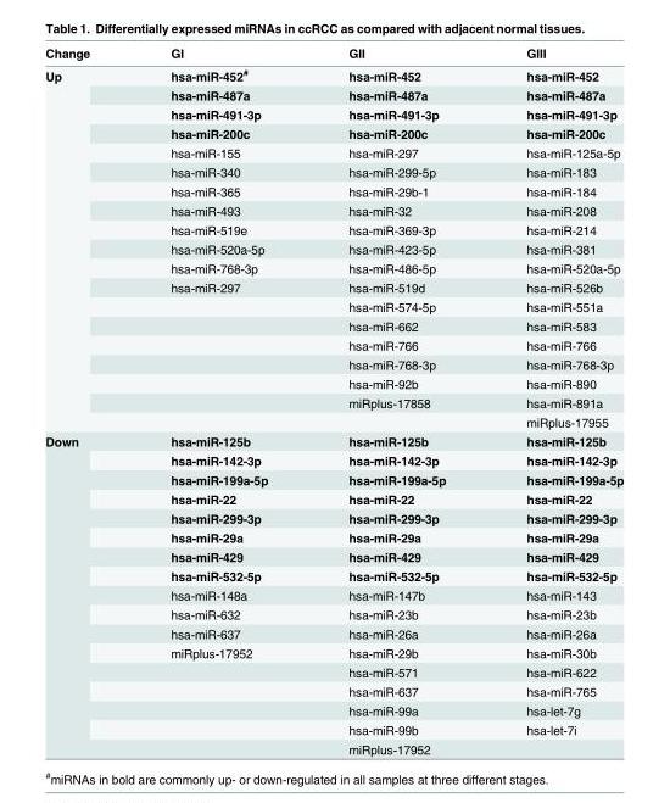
<table><thead><tr><td>Change</td><td>GI</td><td>GII</td><td>GIII</td></tr></thead><tbody><tr><td rowspan="19">Up</td><td>hsa-miR-452<sup>#</sup></td><td>hsa-miR-452</td><td>hsa-miR-452</td></tr><tr><td>hsa-miR-487a</td><td>hsa-miR-487a</td><td>hsa-miR-487a</td></tr><tr><td>hsa-miR-491-3p</td><td>hsa-miR-491-3p</td><td>hsa-miR-491-3p</td></tr><tr><td>hsa-miR-200c</td><td>hsa-miR-200c</td><td>hsa-miR-200c</td></tr><tr><td>hsa-miR-155</td><td>hsa-miR-297</td><td>hsa-miR-125a-5p</td></tr><tr><td>hsa-miR-340</td><td>hsa-miR-299-5p</td><td>hsa-miR-183</td></tr><tr><td>hsa-miR-365</td><td>hsa-miR-29b-1</td><td>hsa-miR-184</td></tr><tr><td>hsa-miR-493</td><td>hsa-miR-32</td><td>hsa-miR-208</td></tr><tr><td>hsa-miR-519e</td><td>hsa-miR-369-3p</td><td>hsa-miR-214</td></tr><tr><td>hsa-miR-520a-5p</td><td>hsa-miR-423-5p</td><td>hsa-miR-381</td></tr><tr><td>hsa-miR-768-3p</td><td>hsa-miR-486-5p</td><td>hsa-miR-520a-5p</td></tr><tr><td>hsa-miR-297</td><td>hsa-miR-519d</td><td>hsa-miR-526b</td></tr><tr><td></td><td>hsa-miR-574-5p</td><td>hsa-miR-551a</td></tr><tr><td></td><td>hsa-miR-662</td><td>hsa-miR-583</td></tr><tr><td></td><td>hsa-miR-766</td><td>hsa-miR-766</td></tr><tr><td></td><td>hsa-miR-768-3p</td><td>hsa-miR-768-3p</td></tr><tr><td></td><td>hsa-miR-92b</td><td>hsa-miR-890</td></tr><tr><td></td><td>miRplus-17858</td><td>hsa-miR-891a</td></tr><tr><td></td><td></td><td>miRplus-17955</td></tr><tr><td rowspan="17">Down</td><td>hsa-miR-125b</td><td>hsa-miR-125b</td><td>hsa-miR-125b</td></tr><tr><td>hsa-miR-142-3p</td><td>hsa-miR-142-3p</td><td>hsa-miR-142-3p</td></tr><tr><td>hsa-miR-199a-5p</td><td>hsa-miR-199a-5p</td><td>hsa-miR-199a-5p</td></tr><tr><td>hsa-miR-22</td><td>hsa-miR-22</td><td>hsa-miR-22</td></tr><tr><td>hsa-miR-299-3p</td><td>hsa-miR-299-3p</td><td>hsa-miR-299-3p</td></tr><tr><td>hsa-miR-29a</td><td>hsa-miR-29a</td><td>hsa-miR-29a</td></tr><tr><td>hsa-miR-429</td><td>hsa-miR-429</td><td>hsa-miR-429</td></tr><tr><td>hsa-miR-532-5p</td><td>hsa-miR-532-5p</td><td>hsa-miR-532-5p</td></tr><tr><td>hsa-miR-148a</td><td>hsa-miR-147b</td><td>hsa-miR-143</td></tr><tr><td>hsa-miR-632</td><td>hsa-miR-23b</td><td>hsa-miR-23b</td></tr><tr><td>hsa-miR-637</td><td>hsa-miR-26a</td><td>hsa-miR-26a</td></tr><tr><td>miRplus-17952</td><td>hsa-miR-29b</td><td>hsa-miR-30b</td></tr><tr><td></td><td>hsa-miR-571</td><td>hsa-miR-622</td></tr><tr><td></td><td>hsa-miR-637</td><td>hsa-miR-765</td></tr><tr><td></td><td>hsa-miR-99a</td><td>hsa-let-7g</td></tr><tr><td></td><td>hsa-miR-99b</td><td>hsa-let-7i</td></tr><tr><td></td><td>miRplus-17952</td><td></td></tr></tbody></table>